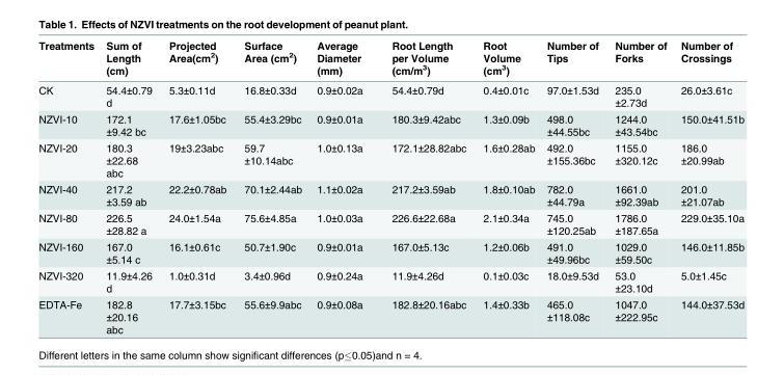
<table><thead><tr><td>Treatments</td><td>Sum of Length (cm)</td><td>Projected Area(cm<sup>2</sup>)</td><td>Surface Area (cm<sup>2</sup>)</td><td>Average Diameter (mm)</td><td>Root Length per Volume (cm/m<sup>3</sup>)</td><td>Root Volume (cm<sup>3</sup>)</td><td>Number of Tips</td><td>Number of Forks</td><td>Number of Crossings</td></tr></thead><tbody><tr><td>CK</td><td>54.4±0.79 d</td><td>5.3±0.11d</td><td>16.8±0.33d</td><td>0.9±0.02a</td><td>54.4±0.79d</td><td>0.4±0.01c</td><td>97.0±1.53d</td><td>235.0 ±2.73d</td><td>26.0±3.61c</td></tr><tr><td>NZVI-10</td><td>172.1 ±9.42 bc</td><td>17.6±1.05bc</td><td>55.4±3.29bc</td><td>0.9±0.01a</td><td>180.3±9.42abc</td><td>1.3±0.09b</td><td>498.0 ±44.55bc</td><td>1244.0 ±43.54bc</td><td>150.0±41.51b</td></tr><tr><td>NZVI-20</td><td>180.3 ±22.68 abc</td><td>19±3.23abc</td><td>59.7 ±10.14abc</td><td>1.0±0.13a</td><td>172.1±28.82abc</td><td>1.6±0.28ab</td><td>492.0 ±155.36bc</td><td>1155.0 ±320.12c</td><td>186.0 ±20.99ab</td></tr><tr><td>NZVI-40</td><td>217.2 ±3.59 ab</td><td>22.2±0.78ab</td><td>70.1±2.44ab</td><td>1.1±0.02a</td><td>217.2±3.59ab</td><td>1.8±0.10ab</td><td>782.0 ±44.79a</td><td>1661.0 ±92.39ab</td><td>201.0 ±21.07ab</td></tr><tr><td>NZVI-80</td><td>226.5 ±28.82 a</td><td>24.0±1.54a</td><td>75.6±4.85a</td><td>1.0±0.03a</td><td>226.6±22.68a</td><td>2.1±0.34a</td><td>745.0 ±120.25ab</td><td>1786.0 ±187.65a</td><td>229.0±35.10a</td></tr><tr><td>NZVI-160</td><td>167.0 ±5.14 c</td><td>16.1±0.61c</td><td>50.7±1.90c</td><td>0.9±0.01a</td><td>167.0±5.13c</td><td>1.2±0.06b</td><td>491.0 ±49.96bc</td><td>1029.0 ±59.50c</td><td>146.0±11.85b</td></tr><tr><td>NZVI-320</td><td>11.9±4.26 d</td><td>1.0±0.31d</td><td>3.4±0.96d</td><td>0.9±0.24a</td><td>11.9±4.26d</td><td>0.1±0.03c</td><td>18.0±9.53d</td><td>53.0 ±23.10d</td><td>5.0±1.45c</td></tr><tr><td>EDTA-Fe</td><td>182.8 ±20.16 abc</td><td>17.7±3.15bc</td><td>55.6±9.9abc</td><td>0.9±0.08a</td><td>182.8±20.16abc</td><td>1.4±0.33b</td><td>465.0 ±118.08c</td><td>1047.0 ±222.95c</td><td>144.0±37.53d</td></tr></tbody></table>